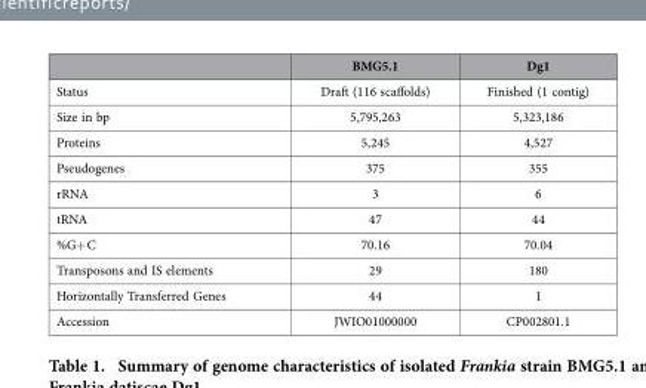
<table><thead><tr><td></td><td>BMG5.1</td><td>Dg1</td></tr></thead><tbody><tr><td>Status</td><td>Draft (116 scaffolds)</td><td>Finished (1 contig)</td></tr><tr><td>Size in bp</td><td>5,795,263</td><td>5,323,186</td></tr><tr><td>Proteins</td><td>5,245</td><td>4,527</td></tr><tr><td>Pseudogenes</td><td>375</td><td>355</td></tr><tr><td>rRNA</td><td>3</td><td>6</td></tr><tr><td>tRNA</td><td>47</td><td>44</td></tr><tr><td>%G+ C</td><td>70.16</td><td>70.04</td></tr><tr><td>Transposons and IS elements</td><td>29</td><td>180</td></tr><tr><td>Horizontally Transferred Genes</td><td>44</td><td>1</td></tr><tr><td>Accession</td><td>JWIO01000000</td><td>CP002801.1</td></tr></tbody></table>